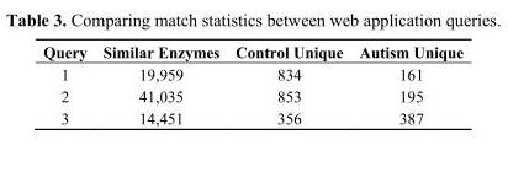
<table><thead><tr><td>Query</td><td>Similar Enzymes</td><td>Control Unique</td><td>Autism Unique</td></tr></thead><tbody><tr><td>1</td><td>19,959</td><td>834</td><td>161</td></tr><tr><td>2</td><td>41,035</td><td>853</td><td>195</td></tr><tr><td>3</td><td>14,451</td><td>356</td><td>387</td></tr></tbody></table>